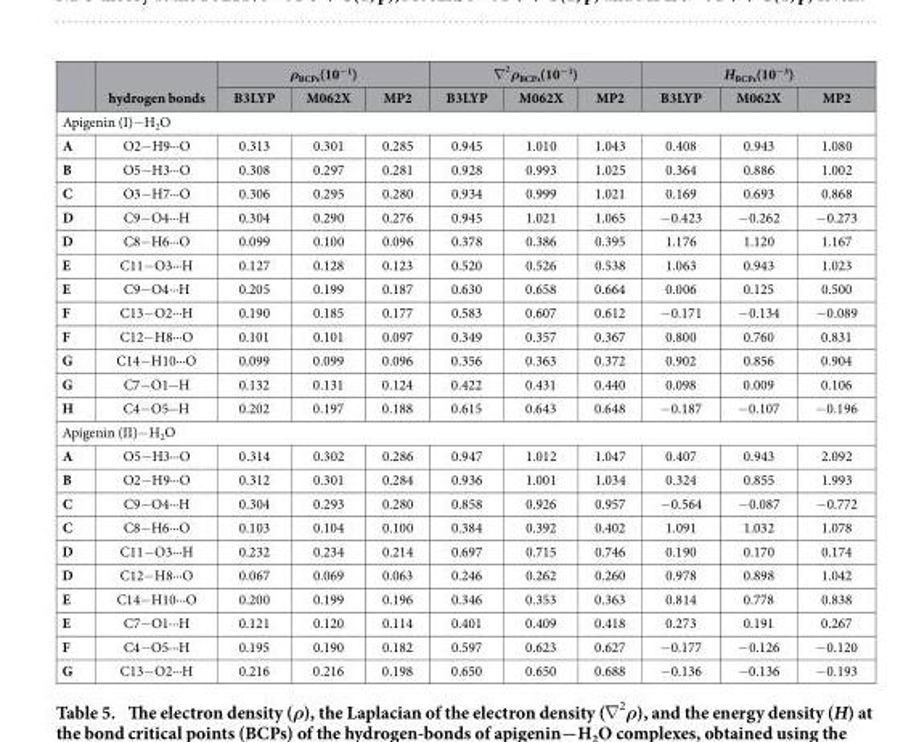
<table><thead><tr><td rowspan="2"></td><td rowspan="2">hydrogen bonds</td><td colspan="3">ρ<sub>BCPs</sub>(10<sup>−1</sup>)</td><td colspan="3">∇2ρBCPs(10−1)</td><td colspan="3">H<sub>BCPs</sub>(10<sup>−3</sup>)</td></tr><tr><td>B3LYP</td><td>M062X</td><td>MP2</td><td>B3LYP</td><td>M062X</td><td>MP2</td><td>B3LYP</td><td>M062X</td><td>MP2</td></tr></thead><tbody><tr><td colspan="11">Apigenin (I)− H<sub>2</sub>O</td></tr><tr><td>A</td><td>O2− H9···O</td><td>0.313</td><td>0.301</td><td>0.285</td><td>0.945</td><td>1.010</td><td>1.043</td><td>0.408</td><td>0.943</td><td>1.080</td></tr><tr><td>B</td><td>O5− H3···O</td><td>0.308</td><td>0.297</td><td>0.281</td><td>0.928</td><td>0.993</td><td>1.025</td><td>0.364</td><td>0.886</td><td>1.002</td></tr><tr><td>C</td><td>O3− H7···O</td><td>0.306</td><td>0.295</td><td>0.280</td><td>0.934</td><td>0.999</td><td>1.021</td><td>0.169</td><td>0.693</td><td>0.868</td></tr><tr><td>D</td><td>C9− O4···H</td><td>0.304</td><td>0.290</td><td>0.276</td><td>0.945</td><td>1.021</td><td>1.065</td><td>− 0.423</td><td>− 0.262</td><td>− 0.273</td></tr><tr><td>D</td><td>C8− H6···O</td><td>0.099</td><td>0.100</td><td>0.096</td><td>0.378</td><td>0.386</td><td>0.395</td><td>1.176</td><td>1.120</td><td>1.167</td></tr><tr><td>E</td><td>C11− O3···H</td><td>0.127</td><td>0.128</td><td>0.123</td><td>0.520</td><td>0.526</td><td>0.538</td><td>1.063</td><td>0.943</td><td>1.023</td></tr><tr><td>E</td><td>C9− O4···H</td><td>0.205</td><td>0.199</td><td>0.187</td><td>0.630</td><td>0.658</td><td>0.664</td><td>0.006</td><td>0.125</td><td>0.500</td></tr><tr><td>F</td><td>C13− O2···H</td><td>0.190</td><td>0.185</td><td>0.177</td><td>0.583</td><td>0.607</td><td>0.612</td><td>− 0.171</td><td>− 0.134</td><td>− 0.089</td></tr><tr><td>F</td><td>C12− H8···O</td><td>0.101</td><td>0.101</td><td>0.097</td><td>0.349</td><td>0.357</td><td>0.367</td><td>0.800</td><td>0.760</td><td>0.831</td></tr><tr><td>G</td><td>C14− H10···O</td><td>0.099</td><td>0.099</td><td>0.096</td><td>0.356</td><td>0.363</td><td>0.372</td><td>0.902</td><td>0.856</td><td>0.904</td></tr><tr><td>G</td><td>C7− O1···H</td><td>0.132</td><td>0.131</td><td>0.124</td><td>0.422</td><td>0.431</td><td>0.440</td><td>0.098</td><td>0.009</td><td>0.106</td></tr><tr><td>H</td><td>C4− O5···H</td><td>0.202</td><td>0.197</td><td>0.188</td><td>0.615</td><td>0.643</td><td>0.648</td><td>− 0.187</td><td>− 0.107</td><td>− 0.196</td></tr><tr><td colspan="11">Apigenin (II)− H<sub>2</sub>O</td></tr><tr><td>A</td><td>O5− H3···O</td><td>0.314</td><td>0.302</td><td>0.286</td><td>0.947</td><td>1.012</td><td>1.047</td><td>0.407</td><td>0.943</td><td>2.092</td></tr><tr><td>B</td><td>O2− H9···O</td><td>0.312</td><td>0.301</td><td>0.284</td><td>0.936</td><td>1.001</td><td>1.034</td><td>0.324</td><td>0.855</td><td>1.993</td></tr><tr><td>C</td><td>C9− O4···H</td><td>0.304</td><td>0.293</td><td>0.280</td><td>0.858</td><td>0.926</td><td>0.957</td><td>− 0.564</td><td>− 0.087</td><td>− 0.772</td></tr><tr><td>C</td><td>C8− H6···O</td><td>0.103</td><td>0.104</td><td>0.100</td><td>0.384</td><td>0.392</td><td>0.402</td><td>1.091</td><td>1.032</td><td>1.078</td></tr><tr><td>D</td><td>C11− O3···H</td><td>0.232</td><td>0.234</td><td>0.214</td><td>0.697</td><td>0.715</td><td>0.746</td><td>0.190</td><td>0.170</td><td>0.174</td></tr><tr><td>D</td><td>C12− H8···O</td><td>0.067</td><td>0.069</td><td>0.063</td><td>0.246</td><td>0.262</td><td>0.260</td><td>0.978</td><td>0.898</td><td>1.042</td></tr><tr><td>E</td><td>C14− H10···O</td><td>0.200</td><td>0.199</td><td>0.196</td><td>0.346</td><td>0.353</td><td>0.363</td><td>0.814</td><td>0.778</td><td>0.838</td></tr><tr><td>E</td><td>C7− O1···H</td><td>0.121</td><td>0.120</td><td>0.114</td><td>0.401</td><td>0.409</td><td>0.418</td><td>0.273</td><td>0.191</td><td>0.267</td></tr><tr><td>F</td><td>C4− O5···H</td><td>0.195</td><td>0.190</td><td>0.182</td><td>0.597</td><td>0.623</td><td>0.627</td><td>− 0.177</td><td>− 0.126</td><td>− 0.120</td></tr><tr><td>G</td><td>C13− O2···H</td><td>0.216</td><td>0.216</td><td>0.198</td><td>0.650</td><td>0.650</td><td>0.688</td><td>− 0.136</td><td>− 0.136</td><td>− 0.193</td></tr></tbody></table>